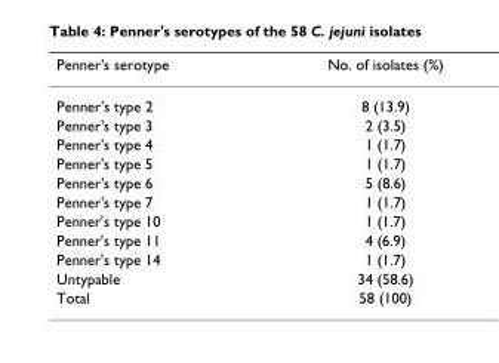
<table><thead><tr><td>Penner&#x27;s serotype</td><td>No. of isolates (%)</td></tr></thead><tbody><tr><td>Penner&#x27;s type 2</td><td>8 (13.9)</td></tr><tr><td>Penner&#x27;s type 3</td><td>2 (3.5)</td></tr><tr><td>Penner&#x27;s type 4</td><td>1 (1.7)</td></tr><tr><td>Penner&#x27;s type 5</td><td>1 (1.7)</td></tr><tr><td>Penner&#x27;s type 6</td><td>5 (8.6)</td></tr><tr><td>Penner&#x27;s type 7</td><td>1 (1.7)</td></tr><tr><td>Penner&#x27;s type 10</td><td>1 (1.7)</td></tr><tr><td>Penner&#x27;s type 11</td><td>4 (6.9)</td></tr><tr><td>Penner&#x27;s type 14</td><td>1 (1.7)</td></tr><tr><td>Untypable</td><td>34 (58.6)</td></tr><tr><td>Total</td><td>58 (100)</td></tr></tbody></table>